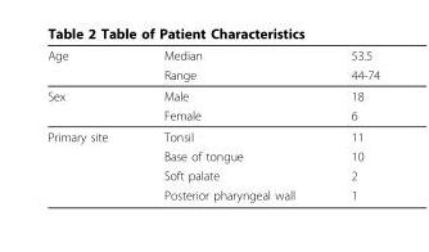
<table><thead><tr><td rowspan="2">Age</td><td rowspan="2">Median Range</td><td rowspan="2">53.5 44-74</td></tr><tr></tr></thead><tbody><tr><td rowspan="2">Sex</td><td>Male</td><td>18</td></tr><tr><td>Female</td><td>6</td></tr><tr><td rowspan="4">Primary site</td><td>Tonsil</td><td>11</td></tr><tr><td>Base of tongue</td><td>10</td></tr><tr><td>Soft palate</td><td>2</td></tr><tr><td>Posterior pharyngeal wall</td><td>1</td></tr></tbody></table>